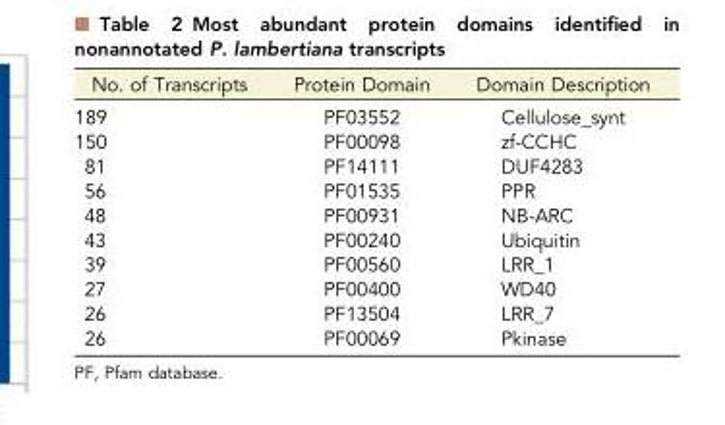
<table><thead><tr><td>No. of Transcripts</td><td>Protein Domain</td><td>Domain Description</td></tr></thead><tbody><tr><td>189</td><td>PF03552</td><td>Cellulose_synt</td></tr><tr><td>150</td><td>PF00098</td><td>zf-CCHC</td></tr><tr><td>81</td><td>PF14111</td><td>DUF4283</td></tr><tr><td>56</td><td>PF01535</td><td>PPR</td></tr><tr><td>48</td><td>PF00931</td><td>NB-ARC</td></tr><tr><td>43</td><td>PF00240</td><td>Ubiquitin</td></tr><tr><td>39</td><td>PF00560</td><td>LRR_1</td></tr><tr><td>27</td><td>PF00400</td><td>WD40</td></tr><tr><td>26</td><td>PF13504</td><td>LRR_7</td></tr><tr><td>26</td><td>PF00069</td><td>Pkinase</td></tr></tbody></table>